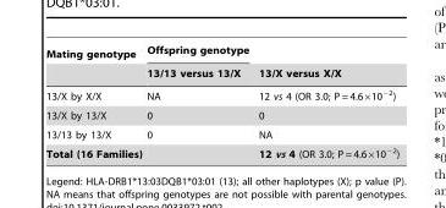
<table><thead><tr><td rowspan="2">Mating genotype</td><td rowspan="2">Offspring genotype 13/13 versus 13/X</td><td rowspan="2">13/X versus X/X</td></tr><tr></tr></thead><tbody><tr><td>13/X by X/X</td><td>NA</td><td>12 vs 4 (OR 3.0; P = 4.6×10<sup>−2</sup>)</td></tr><tr><td>13/X by 13/X</td><td>0</td><td>0</td></tr><tr><td>13/13 by 13/X</td><td>0</td><td>NA</td></tr><tr><td>Total (16 Families)</td><td></td><td>12 vs 4 (OR 3.0; P = 4.6×10<sup>−2</sup>)</td></tr></tbody></table>